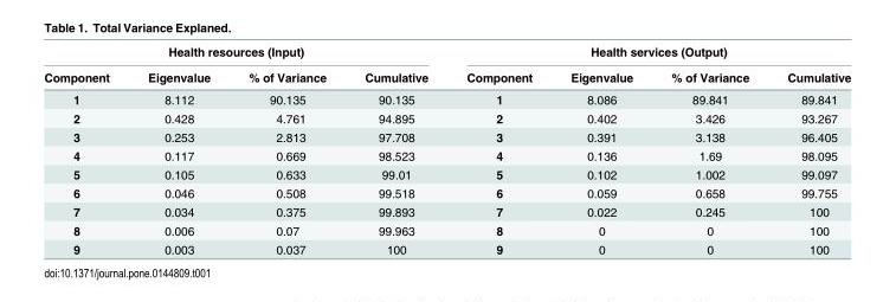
<table><thead><tr><td colspan="4">Health resources (Input)</td><td colspan="4">Health services (Output)</td></tr><tr><td>Component</td><td>Eigenvalue</td><td>% of Variance</td><td>Cumulative</td><td>Component</td><td>Eigenvalue</td><td>% of Variance</td><td>Cumulative</td></tr></thead><tbody><tr><td>1</td><td>8.112</td><td>90.135</td><td>90.135</td><td>1</td><td>8.086</td><td>89.841</td><td>89.841</td></tr><tr><td>2</td><td>0.428</td><td>4.761</td><td>94.895</td><td>2</td><td>0.402</td><td>3.426</td><td>93.267</td></tr><tr><td>3</td><td>0.253</td><td>2.813</td><td>97.708</td><td>3</td><td>0.391</td><td>3.138</td><td>96.405</td></tr><tr><td>4</td><td>0.117</td><td>0.669</td><td>98.523</td><td>4</td><td>0.136</td><td>1.69</td><td>98.095</td></tr><tr><td>5</td><td>0.105</td><td>0.633</td><td>99.01</td><td>5</td><td>0.102</td><td>1.002</td><td>99.097</td></tr><tr><td>6</td><td>0.046</td><td>0.508</td><td>99.518</td><td>6</td><td>0.059</td><td>0.658</td><td>99.755</td></tr><tr><td>7</td><td>0.034</td><td>0.375</td><td>99.893</td><td>7</td><td>0.022</td><td>0.245</td><td>100</td></tr><tr><td>8</td><td>0.006</td><td>0.07</td><td>99.963</td><td>8</td><td>0</td><td>0</td><td>100</td></tr><tr><td>9</td><td>0.003</td><td>0.037</td><td>100</td><td>9</td><td>0</td><td>0</td><td>100</td></tr></tbody></table>